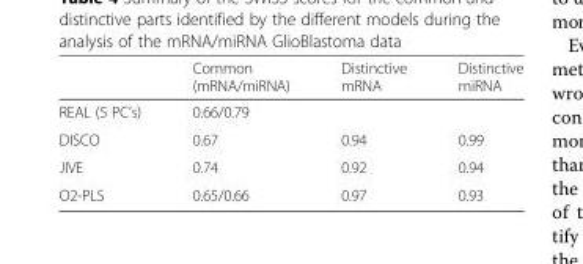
<table><thead><tr><td></td><td>Common (mRNA/miRNA)</td><td>Distinctive mRNA</td><td>Distinctive miRNA</td></tr></thead><tbody><tr><td>REAL (5 PC’s)</td><td>0.66/0.79</td><td colspan="2"></td></tr><tr><td>DISCO</td><td>0.67</td><td>0.94</td><td>0.99</td></tr><tr><td>JIVE</td><td>0.74</td><td>0.92</td><td>0.94</td></tr><tr><td>O2-PLS</td><td>0.65/0.66</td><td>0.97</td><td>0.93</td></tr></tbody></table>